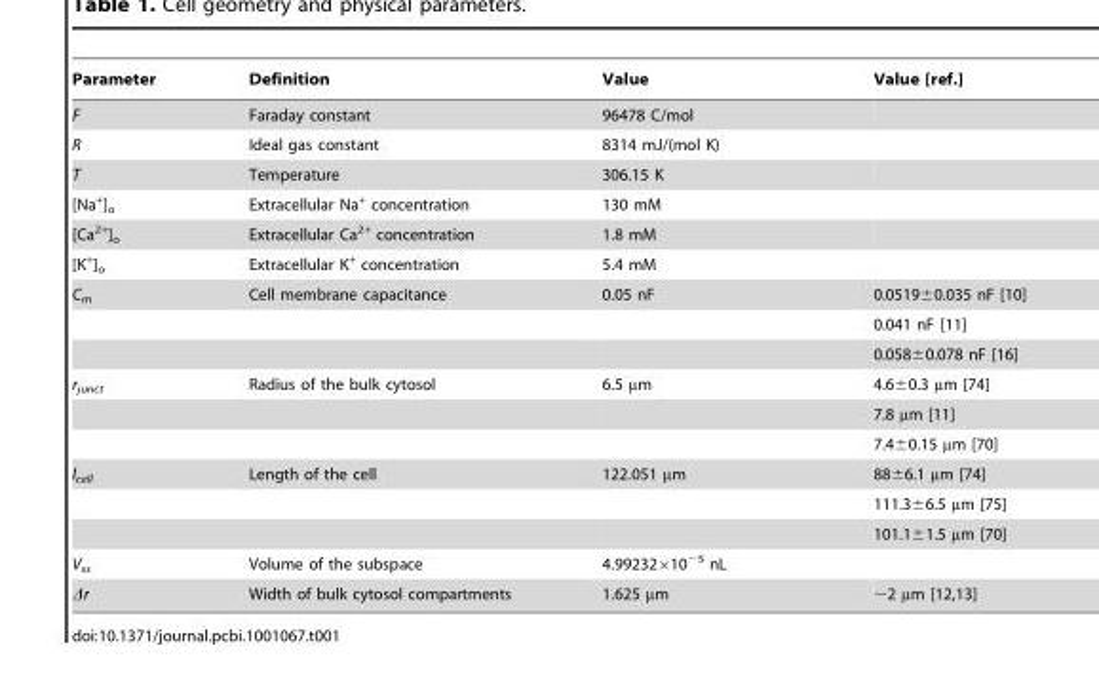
<table><thead><tr><td>Parameter</td><td>Definition</td><td>Value</td><td>Value [ref.]</td></tr></thead><tbody><tr><td>F</td><td>Faraday constant</td><td>96478 C/mol</td><td></td></tr><tr><td>R</td><td>Ideal gas constant</td><td>8314 mJ/(mol K)</td><td></td></tr><tr><td>T</td><td>Temperature</td><td>306.15 K</td><td></td></tr><tr><td>[Na<sup>+</sup>]<sub>o</sub></td><td>Extracellular Na<sup>+</sup> concentration</td><td>130 mM</td><td></td></tr><tr><td>[Ca<sup>2+</sup>]<sub>o</sub></td><td>Extracellular Ca<sup>2+</sup> concentration</td><td>1.8 mM</td><td></td></tr><tr><td>[K<sup>+</sup>]<sub>o</sub></td><td>Extracellular K<sup>+</sup> concentration</td><td>5.4 mM</td><td></td></tr><tr><td rowspan="3">C<sub>m</sub></td><td>Cell membrane capacitance</td><td>0.05 nF</td><td>0.0519±0.035 nF [10]</td></tr><tr><td></td><td></td><td>0.041 nF [11]</td></tr><tr><td></td><td></td><td>0.058±0.078 nF [16]</td></tr><tr><td rowspan="3">r<sub>junct</sub></td><td>Radius of the bulk cytosol</td><td>6.5 µm</td><td>4.6±0.3 µm [74]</td></tr><tr><td></td><td></td><td>7.8 µm [11]</td></tr><tr><td></td><td></td><td>7.4±0.15 µm [70]</td></tr><tr><td rowspan="3">l<sub>cell</sub></td><td>Length of the cell</td><td>122.051 µm</td><td>88±6.1 µm [74]</td></tr><tr><td></td><td></td><td>111.3±6.5 µm [75]</td></tr><tr><td></td><td></td><td>101.1±1.5 µm [70]</td></tr><tr><td>V<sub>ss</sub></td><td>Volume of the subspace</td><td>4.99232×10<sup>−5</sup> nL</td><td></td></tr><tr><td>Δr</td><td>Width of bulk cytosol compartments</td><td>1.625 µm</td><td>,2 mm [12,13]</td></tr></tbody></table>